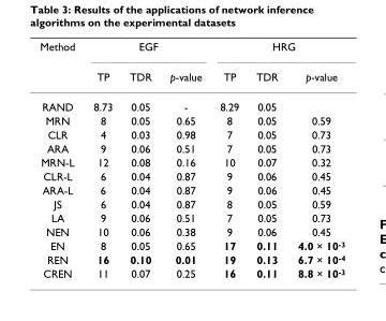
<table><thead><tr><td rowspan="2">Method</td><td colspan="3">EGF</td><td colspan="3">HRG</td></tr><tr><td>TP</td><td>TDR</td><td>p-value</td><td>TP</td><td>TDR</td><td>p-value</td></tr></thead><tbody><tr><td>RAND</td><td>8.73</td><td>0.05</td><td>-</td><td>8.29</td><td>0.05</td><td></td></tr><tr><td>MRN</td><td>8</td><td>0.05</td><td>0.65</td><td>8</td><td>0.05</td><td>0.59</td></tr><tr><td>CLR</td><td>4</td><td>0.03</td><td>0.98</td><td>7</td><td>0.05</td><td>0.73</td></tr><tr><td>ARA</td><td>9</td><td>0.06</td><td>0.51</td><td>7</td><td>0.05</td><td>0.73</td></tr><tr><td>MRN-L</td><td>12</td><td>0.08</td><td>0.16</td><td>10</td><td>0.07</td><td>0.32</td></tr><tr><td>CLR-L</td><td>6</td><td>0.04</td><td>0.87</td><td>9</td><td>0.06</td><td>0.45</td></tr><tr><td>ARA-L</td><td>6</td><td>0.04</td><td>0.87</td><td>9</td><td>0.06</td><td>0.45</td></tr><tr><td>JS</td><td>6</td><td>0.04</td><td>0.87</td><td>8</td><td>0.05</td><td>0.59</td></tr><tr><td>LA</td><td>9</td><td>0.06</td><td>0.51</td><td>7</td><td>0.05</td><td>0.73</td></tr><tr><td>NEN</td><td>10</td><td>0.06</td><td>0.38</td><td>9</td><td>0.06</td><td>0.45</td></tr><tr><td>EN</td><td>8</td><td>0.05</td><td>0.65</td><td>17</td><td>0.11</td><td>4.0 × 10<sup>-3</sup></td></tr><tr><td>REN</td><td>16</td><td>0.10</td><td>0.01</td><td>19</td><td>0.13</td><td>6.7 × 10<sup>-4</sup></td></tr><tr><td>CREN</td><td>11</td><td>0.07</td><td>0.25</td><td>16</td><td>0.11</td><td>8.8 × 10<sup>-3</sup></td></tr></tbody></table>